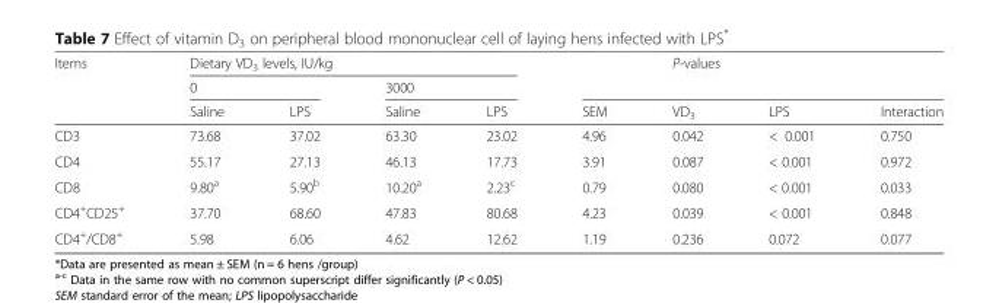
<table><thead><tr><td rowspan="3">Items</td><td colspan="4">Dietary VD<sub>3</sub> levels, IU/kg</td><td rowspan="3">SEM</td><td rowspan="2" colspan="3">P-values</td></tr><tr><td colspan="2">0</td><td colspan="2">3000</td></tr><tr><td>Saline</td><td>LPS</td><td>Saline</td><td>LPS</td><td>VD<sub>3</sub></td><td>LPS</td><td>Interaction</td></tr></thead><tbody><tr><td>CD3</td><td>73.68</td><td>37.02</td><td>63.30</td><td>23.02</td><td>4.96</td><td>0.042</td><td>&lt; 0.001</td><td>0.750</td></tr><tr><td>CD4</td><td>55.17</td><td>27.13</td><td>46.13</td><td>17.73</td><td>3.91</td><td>0.087</td><td>&lt; 0.001</td><td>0.972</td></tr><tr><td>CD8</td><td>9.80<sup>a</sup></td><td>5.90<sup>b</sup></td><td>10.20<sup>a</sup></td><td>2.23<sup>c</sup></td><td>0.79</td><td>0.080</td><td>&lt; 0.001</td><td>0.033</td></tr><tr><td>CD4<sup>+</sup>CD25<sup>+</sup></td><td>37.70</td><td>68.60</td><td>47.83</td><td>80.68</td><td>4.23</td><td>0.039</td><td>&lt; 0.001</td><td>0.848</td></tr><tr><td>CD4<sup>+</sup>/CD8<sup>+</sup></td><td>5.98</td><td>6.06</td><td>4.62</td><td>12.62</td><td>1.19</td><td>0.236</td><td>0.072</td><td>0.077</td></tr></tbody></table>